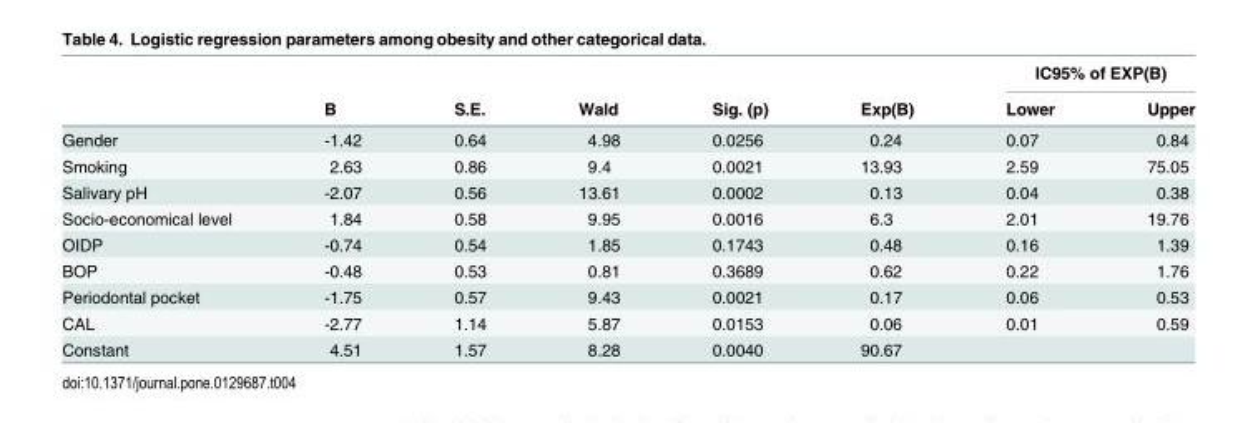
<table><thead><tr><td rowspan="2"></td><td rowspan="2">B</td><td rowspan="2">S.E.</td><td rowspan="2">Wald</td><td rowspan="2">Sig. (p)</td><td rowspan="2">Exp(B)</td><td colspan="2">IC95% of EXP(B)</td></tr><tr><td>Lower</td><td>Upper</td></tr></thead><tbody><tr><td>Gender</td><td>-1.42</td><td>0.64</td><td>4.98</td><td>0.0256</td><td>0.24</td><td>0.07</td><td>0.84</td></tr><tr><td>Smoking</td><td>2.63</td><td>0.86</td><td>9.4</td><td>0.0021</td><td>13.93</td><td>2.59</td><td>75.05</td></tr><tr><td>Salivary pH</td><td>-2.07</td><td>0.56</td><td>13.61</td><td>0.0002</td><td>0.13</td><td>0.04</td><td>0.38</td></tr><tr><td>Socio-economical level</td><td>1.84</td><td>0.58</td><td>9.95</td><td>0.0016</td><td>6.3</td><td>2.01</td><td>19.76</td></tr><tr><td>OIDP</td><td>-0.74</td><td>0.54</td><td>1.85</td><td>0.1743</td><td>0.48</td><td>0.16</td><td>1.39</td></tr><tr><td>BOP</td><td>-0.48</td><td>0.53</td><td>0.81</td><td>0.3689</td><td>0.62</td><td>0.22</td><td>1.76</td></tr><tr><td>Periodontal pocket</td><td>-1.75</td><td>0.57</td><td>9.43</td><td>0.0021</td><td>0.17</td><td>0.06</td><td>0.53</td></tr><tr><td>CAL</td><td>-2.77</td><td>1.14</td><td>5.87</td><td>0.0153</td><td>0.06</td><td>0.01</td><td>0.59</td></tr><tr><td>Constant</td><td>4.51</td><td>1.57</td><td>8.28</td><td>0.0040</td><td>90.67</td><td></td><td></td></tr></tbody></table>